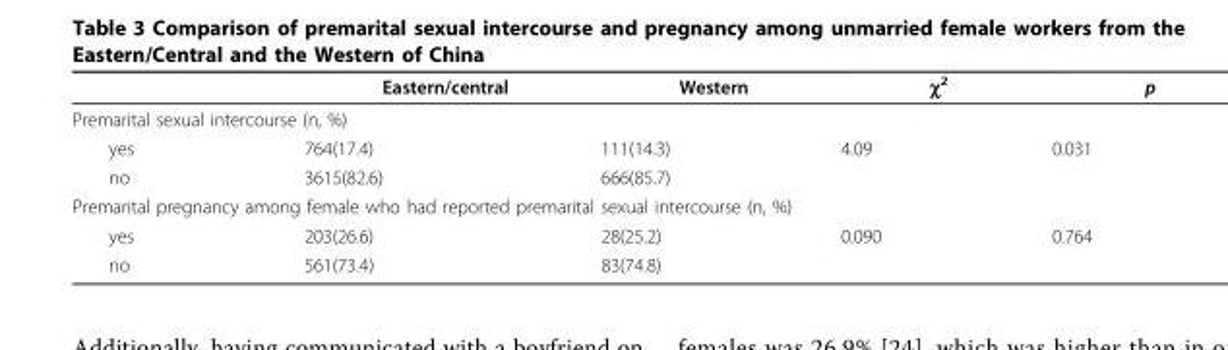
<table><thead><tr><td></td><td>Eastern/central</td><td>Western</td><td>χ<sup>2</sup></td><td>p</td></tr></thead><tbody><tr><td colspan="5">Premarital sexual intercourse (n, %)</td></tr><tr><td>yes</td><td>764(17.4)</td><td>111(14.3)</td><td>4.09</td><td>0.031</td></tr><tr><td>no</td><td>3615(82.6)</td><td>666(85.7)</td><td></td><td></td></tr><tr><td colspan="5">Premarital pregnancy among female who had reported premarital sexual intercourse (n, %)</td></tr><tr><td>yes</td><td>203(26.6)</td><td>28(25.2)</td><td>0.090</td><td>0.764</td></tr><tr><td>no</td><td>561(73.4)</td><td>83(74.8)</td><td></td><td></td></tr></tbody></table>